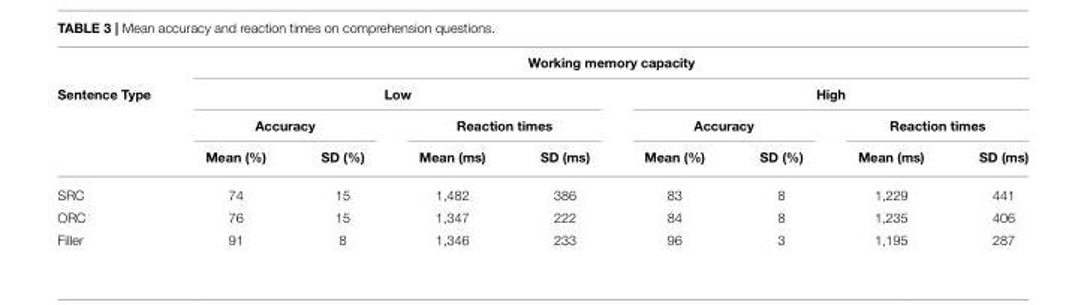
<table><thead><tr><td rowspan="4">Sentence Type</td><td colspan="8">Working memory capacity</td></tr><tr><td colspan="4">Low</td><td colspan="4">High</td></tr><tr><td colspan="2">Accuracy</td><td colspan="2">Reaction times</td><td colspan="2">Accuracy</td><td colspan="2">Reaction times</td></tr><tr><td>Mean (%)</td><td>SD (%)</td><td>Mean (ms)</td><td>SD (ms)</td><td>Mean (%)</td><td>SD (%)</td><td>Mean (ms)</td><td>SD (ms)</td></tr></thead><tbody><tr><td>SRC</td><td>74</td><td>15</td><td>1,482</td><td>386</td><td>83</td><td>8</td><td>1,229</td><td>441</td></tr><tr><td>ORC</td><td>76</td><td>15</td><td>1,347</td><td>222</td><td>84</td><td>8</td><td>1,235</td><td>406</td></tr><tr><td>Filler</td><td>91</td><td>8</td><td>1,346</td><td>233</td><td>96</td><td>3</td><td>1,195</td><td>287</td></tr></tbody></table>